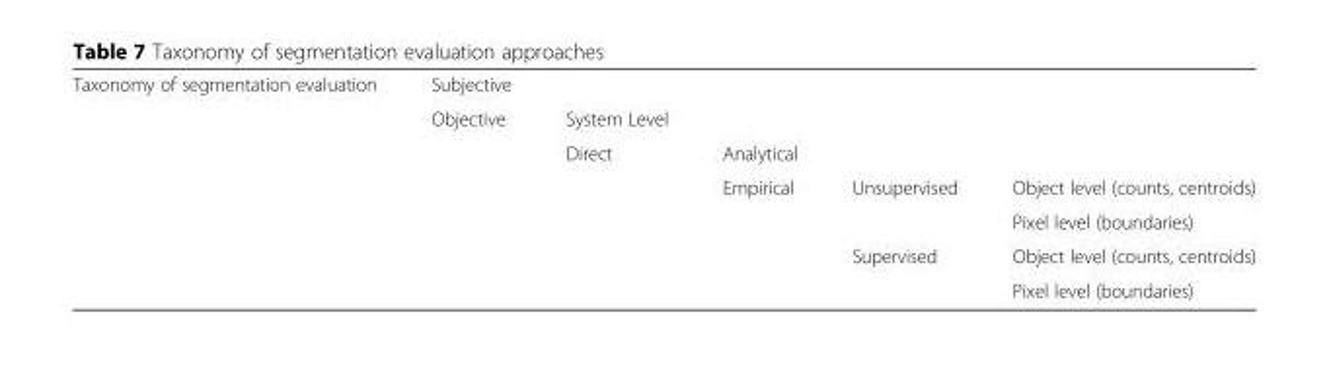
<table><tbody><tr><td rowspan="7">Taxonomy of segmentation evaluation</td><td>Subjective</td><td></td><td></td><td></td><td></td></tr><tr><td rowspan="6">Objective</td><td>System Level</td><td></td><td></td><td></td></tr><tr><td rowspan="5">Direct</td><td>Analytical</td><td></td><td></td></tr><tr><td rowspan="4">Empirical</td><td rowspan="2">Unsupervised</td><td>Object level (counts, centroids)</td></tr><tr><td>Pixel level (boundaries)</td></tr><tr><td rowspan="2">Supervised</td><td>Object level (counts, centroids)</td></tr><tr><td>Pixel level (boundaries)</td></tr></tbody></table>